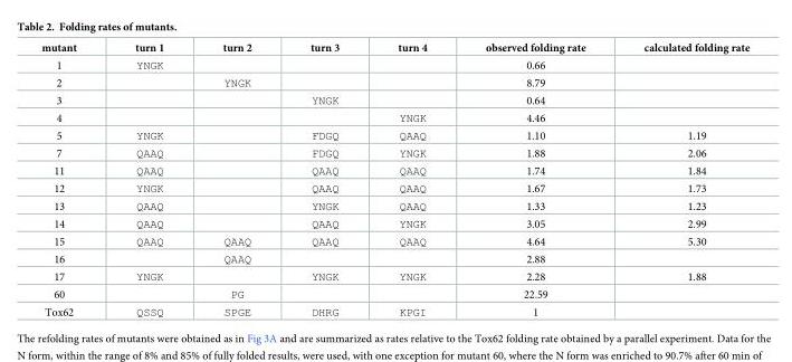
<table><thead><tr><td>mutant</td><td>turn 1</td><td>turn 2</td><td>turn 3</td><td>turn 4</td><td>observed folding rate</td><td>calculated folding rate</td></tr></thead><tbody><tr><td>1</td><td>YNGK</td><td></td><td></td><td></td><td>0.66</td><td></td></tr><tr><td>2</td><td></td><td>YNGK</td><td></td><td></td><td>8.79</td><td></td></tr><tr><td>3</td><td></td><td></td><td>YNGK</td><td></td><td>0.64</td><td></td></tr><tr><td>4</td><td></td><td></td><td></td><td>YNGK</td><td>4.46</td><td></td></tr><tr><td>5</td><td>YNGK</td><td></td><td>FDGQ</td><td>QAAQ</td><td>1.10</td><td>1.19</td></tr><tr><td>7</td><td>QAAQ</td><td></td><td>FDGQ</td><td>YNGK</td><td>1.88</td><td>2.06</td></tr><tr><td>11</td><td>QAAQ</td><td></td><td>QAAQ</td><td>QAAQ</td><td>1.74</td><td>1.84</td></tr><tr><td>12</td><td>YNGK</td><td></td><td>QAAQ</td><td>QAAQ</td><td>1.67</td><td>1.73</td></tr><tr><td>13</td><td>QAAQ</td><td></td><td>YNGK</td><td>QAAQ</td><td>1.33</td><td>1.23</td></tr><tr><td>14</td><td>QAAQ</td><td></td><td>QAAQ</td><td>YNGK</td><td>3.05</td><td>2.99</td></tr><tr><td>15</td><td>QAAQ</td><td>QAAQ</td><td>QAAQ</td><td>QAAQ</td><td>4.64</td><td>5.30</td></tr><tr><td>16</td><td></td><td>QAAQ</td><td></td><td></td><td>2.88</td><td></td></tr><tr><td>17</td><td>YNGK</td><td></td><td>YNGK</td><td>YNGK</td><td>2.28</td><td>1.88</td></tr><tr><td>60</td><td></td><td>PG</td><td></td><td></td><td>22.59</td><td></td></tr><tr><td>Tox62</td><td>QSSQ</td><td>SPGE</td><td>DHRG</td><td>KPGI</td><td>1</td><td></td></tr></tbody></table>